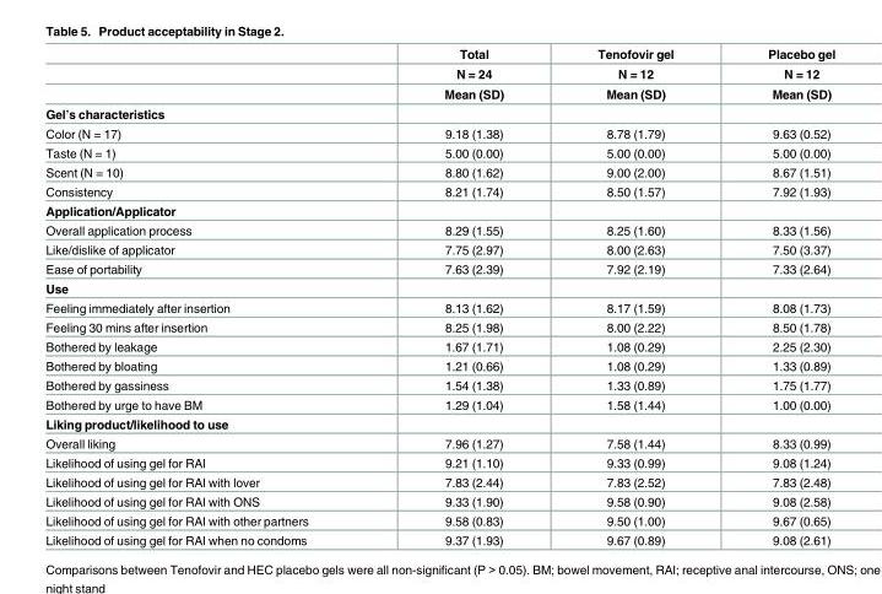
<table><thead><tr><td rowspan="3"></td><td rowspan="3">Total N = 24 Mean (SD)</td><td rowspan="3">Tenofovir gel N = 12 Mean (SD)</td><td rowspan="3">Placebo gel N = 12 Mean (SD)</td></tr><tr></tr><tr></tr></thead><tbody><tr><td colspan="4">Gel’s characteristics</td></tr><tr><td>Color (N = 17)</td><td>9.18 (1.38)</td><td>8.78 (1.79)</td><td>9.63 (0.52)</td></tr><tr><td>Taste (N = 1)</td><td>5.00 (0.00)</td><td>5.00 (0.00)</td><td>5.00 (0.00)</td></tr><tr><td>Scent (N = 10)</td><td>8.80 (1.62)</td><td>9.00 (2.00)</td><td>8.67 (1.51)</td></tr><tr><td>Consistency</td><td>8.21 (1.74)</td><td>8.50 (1.57)</td><td>7.92 (1.93)</td></tr><tr><td colspan="4">Application/Applicator</td></tr><tr><td>Overall application process</td><td>8.29 (1.55)</td><td>8.25 (1.60)</td><td>8.33 (1.56)</td></tr><tr><td>Like/dislike of applicator</td><td>7.75 (2.97)</td><td>8.00 (2.63)</td><td>7.50 (3.37)</td></tr><tr><td>Ease of portability</td><td>7.63 (2.39)</td><td>7.92 (2.19)</td><td>7.33 (2.64)</td></tr><tr><td colspan="4">Use</td></tr><tr><td>Feeling immediately after insertion</td><td>8.13 (1.62)</td><td>8.17 (1.59)</td><td>8.08 (1.73)</td></tr><tr><td>Feeling 30 mins after insertion</td><td>8.25 (1.98)</td><td>8.00 (2.22)</td><td>8.50 (1.78)</td></tr><tr><td>Bothered by leakage</td><td>1.67 (1.71)</td><td>1.08 (0.29)</td><td>2.25 (2.30)</td></tr><tr><td>Bothered by bloating</td><td>1.21 (0.66)</td><td>1.08 (0.29)</td><td>1.33 (0.89)</td></tr><tr><td>Bothered by gassiness</td><td>1.54 (1.38)</td><td>1.33 (0.89)</td><td>1.75 (1.77)</td></tr><tr><td>Bothered by urge to have BM</td><td>1.29 (1.04)</td><td>1.58 (1.44)</td><td>1.00 (0.00)</td></tr><tr><td colspan="4">Liking product/likelihood to use</td></tr><tr><td>Overall liking</td><td>7.96 (1.27)</td><td>7.58 (1.44)</td><td>8.33 (0.99)</td></tr><tr><td>Likelihood of using gel for RAI</td><td>9.21 (1.10)</td><td>9.33 (0.99)</td><td>9.08 (1.24)</td></tr><tr><td>Likelihood of using gel for RAI with lover</td><td>7.83 (2.44)</td><td>7.83 (2.52)</td><td>7.83 (2.48)</td></tr><tr><td>Likelihood of using gel for RAI with ONS</td><td>9.33 (1.90)</td><td>9.58 (0.90)</td><td>9.08 (2.58)</td></tr><tr><td>Likelihood of using gel for RAI with other partners</td><td>9.58 (0.83)</td><td>9.50 (1.00)</td><td>9.67 (0.65)</td></tr><tr><td>Likelihood of using gel for RAI when no condoms</td><td>9.37 (1.93)</td><td>9.67 (0.89)</td><td>9.08 (2.61)</td></tr></tbody></table>